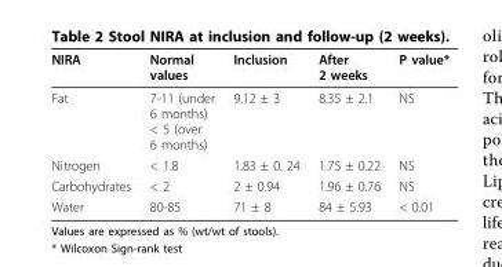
<table><thead><tr><td>NIRA</td><td>Normal values</td><td>Inclusion</td><td>After 2 weeks</td><td>P value*</td></tr></thead><tbody><tr><td>Fat</td><td>7-11 (under 6 months) &lt; 5 (over 6 months)</td><td>9.12 ± 3</td><td>8.35 ± 2.1</td><td>NS</td></tr><tr><td>Nitrogen</td><td>&lt; 1.8</td><td>1.83 ± 0. 24</td><td>1.75 ± 0.22</td><td>NS</td></tr><tr><td>Carbohydrates</td><td>&lt; 2</td><td>2 ± 0.94</td><td>1.96 ± 0.76</td><td>NS</td></tr><tr><td>Water</td><td>80-85</td><td>71 ± 8</td><td>84 ± 5.93</td><td>&lt; 0.01</td></tr></tbody></table>